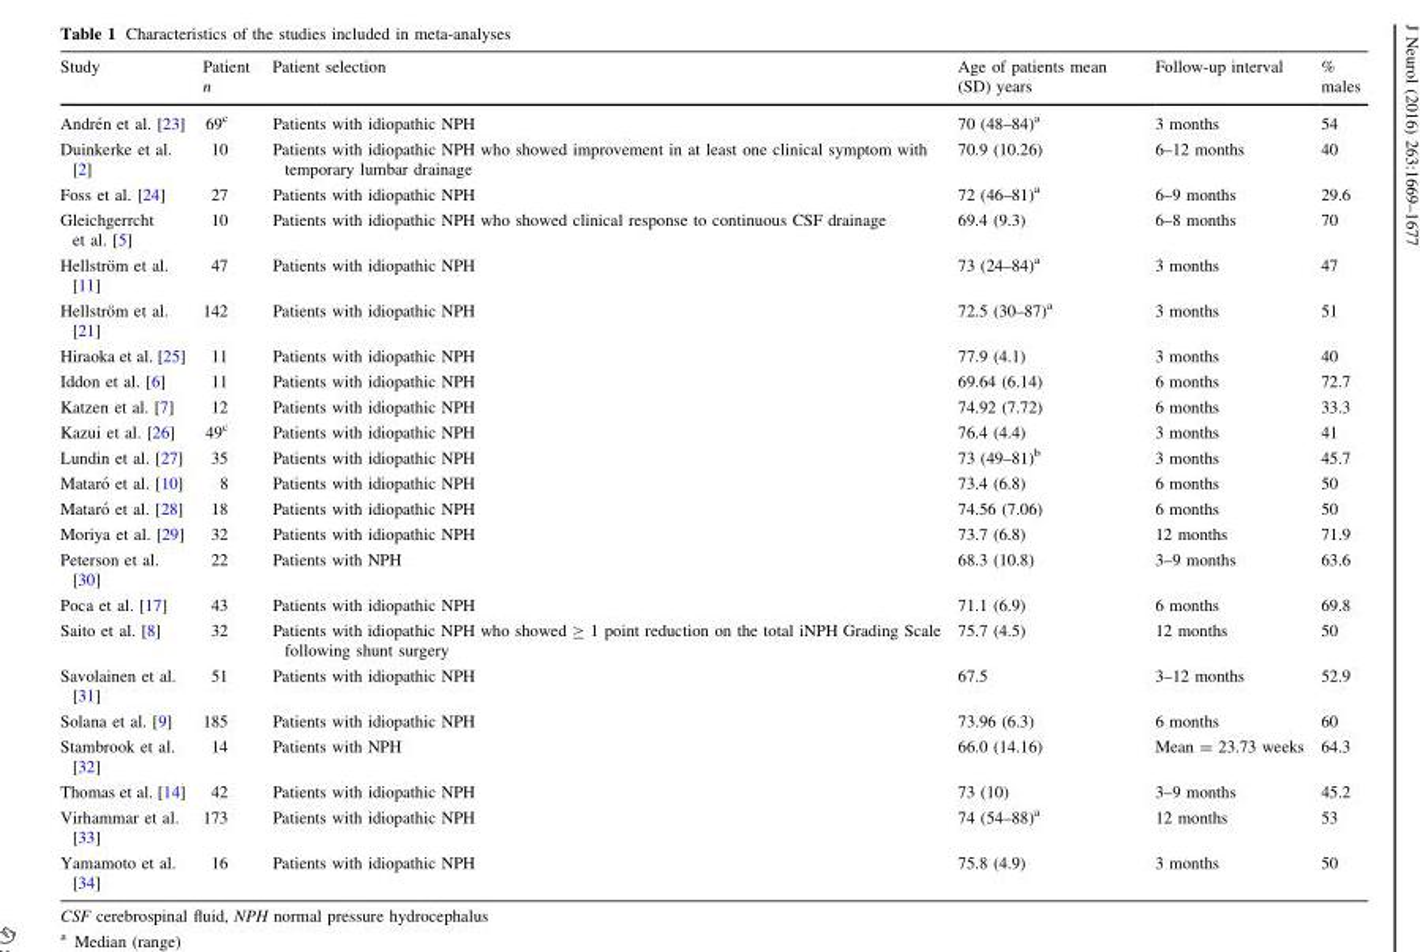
<table><thead><tr><td>Study</td><td>Patient n</td><td>Patient selection</td><td>Age of patients mean (SD) years</td><td>Follow-up interval</td><td>% males</td></tr></thead><tbody><tr><td>Andre´n et al. [23]</td><td>69<sup>c</sup></td><td>Patients with idiopathic NPH</td><td>70 (48–84)<sup>a</sup></td><td>3 months</td><td>54</td></tr><tr><td>Duinkerke et al. [2]</td><td>10</td><td>Patients with idiopathic NPH who showed improvement in at least one clinical symptom with temporary lumbar drainage</td><td>70.9 (10.26)</td><td>6–12 months</td><td>40</td></tr><tr><td>Foss et al. [24]</td><td>27</td><td>Patients with idiopathic NPH</td><td>72 (46–81)<sup>a</sup></td><td>6–9 months</td><td>29.6</td></tr><tr><td>Gleichgerrcht et al. [5]</td><td>10</td><td>Patients with idiopathic NPH who showed clinical response to continuous CSF drainage</td><td>69.4 (9.3)</td><td>6–8 months</td><td>70</td></tr><tr><td>Hellstro¨m et al. [11]</td><td>47</td><td>Patients with idiopathic NPH</td><td>73 (24–84)<sup>a</sup></td><td>3 months</td><td>47</td></tr><tr><td>Hellstro¨m et al. [21]</td><td>142</td><td>Patients with idiopathic NPH</td><td>72.5 (30–87)<sup>a</sup></td><td>3 months</td><td>51</td></tr><tr><td>Hiraoka et al. [25]</td><td>11</td><td>Patients with idiopathic NPH</td><td>77.9 (4.1)</td><td>3 months</td><td>40</td></tr><tr><td>Iddon et al. [6]</td><td>11</td><td>Patients with idiopathic NPH</td><td>69.64 (6.14)</td><td>6 months</td><td>72.7</td></tr><tr><td>Katzen et al. [7]</td><td>12</td><td>Patients with idiopathic NPH</td><td>74.92 (7.72)</td><td>6 months</td><td>33.3</td></tr><tr><td>Kazui et al. [26]</td><td>49<sup>c</sup></td><td>Patients with idiopathic NPH</td><td>76.4 (4.4)</td><td>3 months</td><td>41</td></tr><tr><td>Lundin et al. [27]</td><td>35</td><td>Patients with idiopathic NPH</td><td>73 (49–81)<sup>b</sup></td><td>3 months</td><td>45.7</td></tr><tr><td>Mataro´ et al. [10]</td><td>8</td><td>Patients with idiopathic NPH</td><td>73.4 (6.8)</td><td>6 months</td><td>50</td></tr><tr><td>Mataro´ et al. [28]</td><td>18</td><td>Patients with idiopathic NPH</td><td>74.56 (7.06)</td><td>6 months</td><td>50</td></tr><tr><td>Moriya et al. [29]</td><td>32</td><td>Patients with idiopathic NPH</td><td>73.7 (6.8)</td><td>12 months</td><td>71.9</td></tr><tr><td>Peterson et al. [30]</td><td>22</td><td>Patients with NPH</td><td>68.3 (10.8)</td><td>3–9 months</td><td>63.6</td></tr><tr><td>Poca et al. [17]</td><td>43</td><td>Patients with idiopathic NPH</td><td>71.1 (6.9)</td><td>6 months</td><td>69.8</td></tr><tr><td>Saito et al. [8]</td><td>32</td><td>Patients with idiopathic NPH who showed ≥ 1 point reduction on the total iNPH Grading Scale following shunt surgery</td><td>75.7 (4.5)</td><td>12 months</td><td>50</td></tr><tr><td>Savolainen et al. [31]</td><td>51</td><td>Patients with idiopathic NPH</td><td>67.5</td><td>3–12 months</td><td>52.9</td></tr><tr><td>Solana et al. [9]</td><td>185</td><td>Patients with idiopathic NPH</td><td>73.96 (6.3)</td><td>6 months</td><td>60</td></tr><tr><td>Stambrook et al. [32]</td><td>14</td><td>Patients with NPH</td><td>66.0 (14.16)</td><td>Mean = 23.73 weeks</td><td>64.3</td></tr><tr><td>Thomas et al. [14]</td><td>42</td><td>Patients with idiopathic NPH</td><td>73 (10)</td><td>3–9 months</td><td>45.2</td></tr><tr><td>Virhammar et al. [33]</td><td>173</td><td>Patients with idiopathic NPH</td><td>74 (54–88)<sup>a</sup></td><td>12 months</td><td>53</td></tr><tr><td>Yamamoto et al. [34]</td><td>16</td><td>Patients with idiopathic NPH</td><td>75.8 (4.9)</td><td>3 months</td><td>50</td></tr></tbody></table>